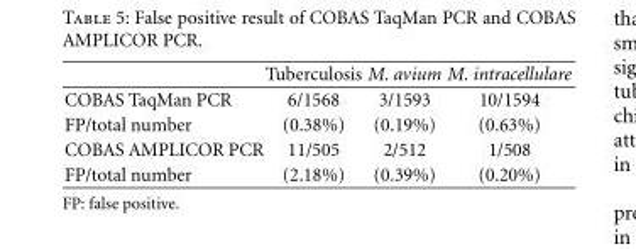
<table><thead><tr><td></td><td>Tuberculosis</td><td>M. avium</td><td>M. intracellulare</td></tr></thead><tbody><tr><td>COBAS TaqMan PCR</td><td>6/1568</td><td>3/1593</td><td>10/1594</td></tr><tr><td>FP/total number</td><td>(0.38%)</td><td>(0.19%)</td><td>(0.63%)</td></tr><tr><td>COBAS AMPLICOR PCR</td><td>11/505</td><td>2/512</td><td>1/508</td></tr><tr><td>FP/total number</td><td>(2.18%)</td><td>(0.39%)</td><td>(0.20%)</td></tr></tbody></table>